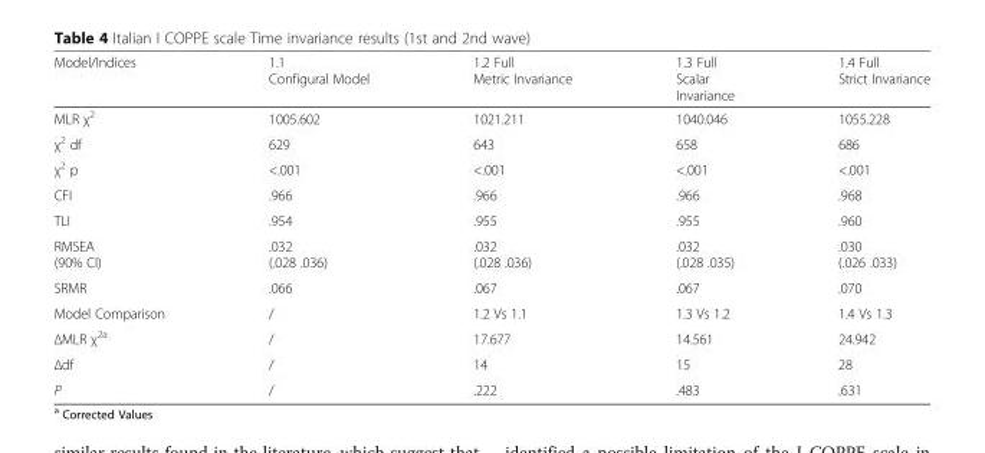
<table><thead><tr><td>Model/Indices</td><td>1.1 Configural Model</td><td>1.2 Full Metric Invariance</td><td>1.3 Full Scalar Invariance</td><td>1.4 Full Strict Invariance</td></tr></thead><tbody><tr><td>MLR χ<sup>2</sup></td><td>1005.602</td><td>1021.211</td><td>1040.046</td><td>1055.228</td></tr><tr><td>χ<sup>2</sup> df</td><td>629</td><td>643</td><td>658</td><td>686</td></tr><tr><td>χ<sup>2</sup> p</td><td>&lt;.001</td><td>&lt;.001</td><td>&lt;.001</td><td>&lt;.001</td></tr><tr><td>CFI</td><td>.966</td><td>.966</td><td>.966</td><td>.968</td></tr><tr><td>TLI</td><td>.954</td><td>.955</td><td>.955</td><td>.960</td></tr><tr><td>RMSEA (90% CI)</td><td>.032 (.028 .036)</td><td>.032 (.028 .036)</td><td>.032 (.028 .035)</td><td>.030 (.026 .033)</td></tr><tr><td>SRMR</td><td>.066</td><td>.067</td><td>.067</td><td>.070</td></tr><tr><td>Model Comparison</td><td>/</td><td>1.2 Vs 1.1</td><td>1.3 Vs 1.2</td><td>1.4 Vs 1.3</td></tr><tr><td>ΔMLR χ2a</td><td>/</td><td>17.677</td><td>14.561</td><td>24.942</td></tr><tr><td>Δdf</td><td>/</td><td>14</td><td>15</td><td>28</td></tr><tr><td>P</td><td>/</td><td>.222</td><td>.483</td><td>.631</td></tr></tbody></table>